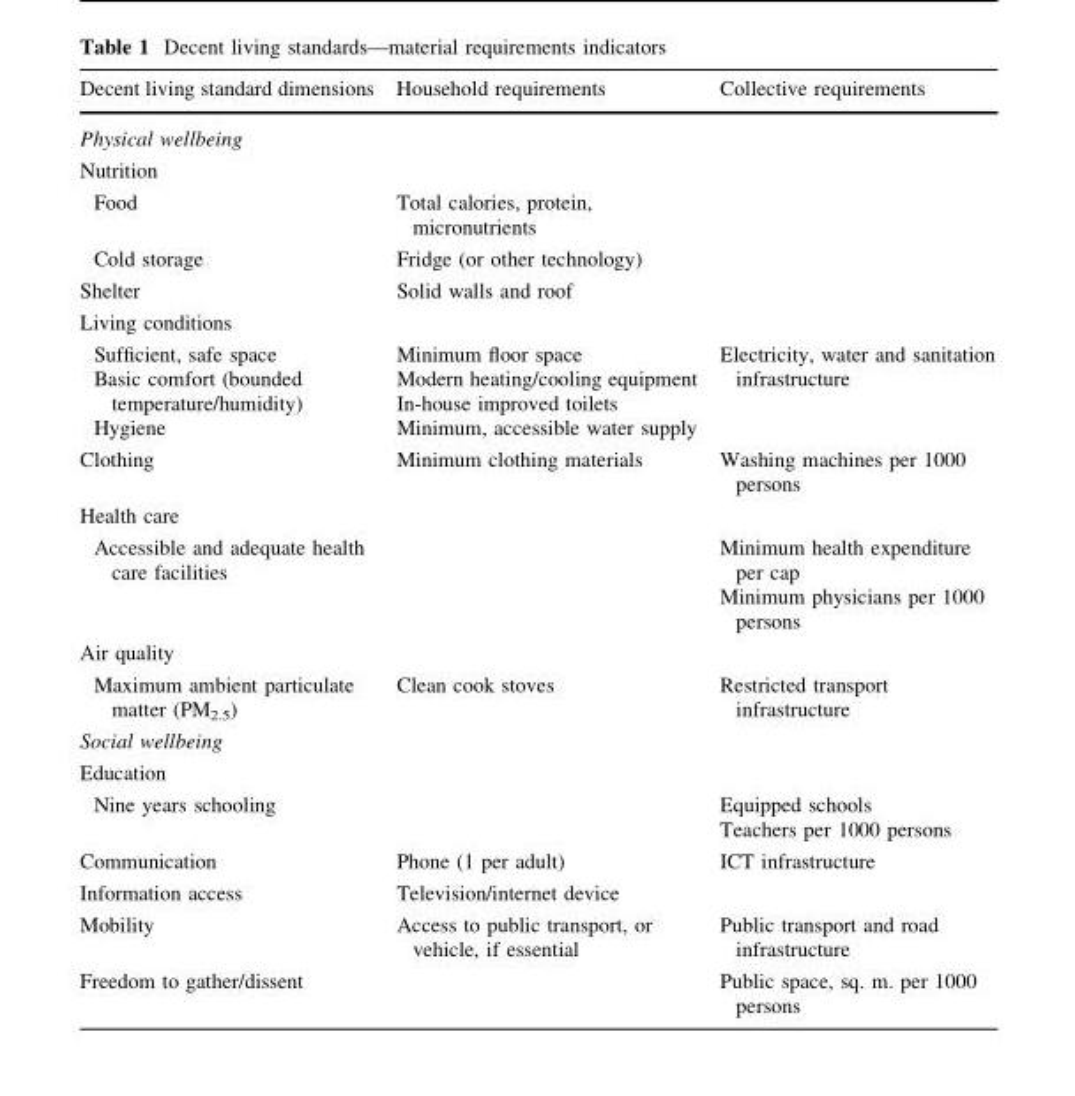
<table><thead><tr><td>Decent living standard dimensions</td><td>Household requirements</td><td>Collective requirements</td></tr></thead><tbody><tr><td colspan="3">Physical wellbeing</td></tr><tr><td colspan="3">Nutrition</td></tr><tr><td>Food</td><td>Total calories, protein, micronutrients</td><td></td></tr><tr><td>Cold storage</td><td>Fridge (or other technology)</td><td></td></tr><tr><td>Shelter</td><td>Solid walls and roof</td><td></td></tr><tr><td colspan="3">Living conditions</td></tr><tr><td>Sufficient, safe space Basic comfort (bounded temperature/humidity) Hygiene</td><td>Minimum floor space Modern heating/cooling equipment In-house improved toilets Minimum, accessible water supply</td><td>Electricity, water and sanitation infrastructure</td></tr><tr><td>Clothing</td><td>Minimum clothing materials</td><td>Washing machines per 1000 persons</td></tr><tr><td colspan="3">Health care</td></tr><tr><td>Accessible and adequate health care facilities</td><td></td><td>Minimum health expenditure per cap Minimum physicians per 1000 persons</td></tr><tr><td colspan="3">Air quality</td></tr><tr><td>Maximum ambient particulate matter (PM<sub>2.5</sub>)</td><td>Clean cook stoves</td><td>Restricted transport infrastructure</td></tr><tr><td colspan="3">Social wellbeing</td></tr><tr><td colspan="3">Education</td></tr><tr><td>Nine years schooling</td><td></td><td>Equipped schools Teachers per 1000 persons</td></tr><tr><td>Communication</td><td>Phone (1 per adult)</td><td rowspan="2">ICT infrastructure</td></tr><tr><td>Information access</td><td>Television/internet device</td></tr><tr><td>Mobility</td><td>Access to public transport, or vehicle, if essential</td><td>Public transport and road infrastructure</td></tr><tr><td>Freedom to gather/dissent</td><td></td><td>Public space, sq. m. per 1000 persons</td></tr></tbody></table>